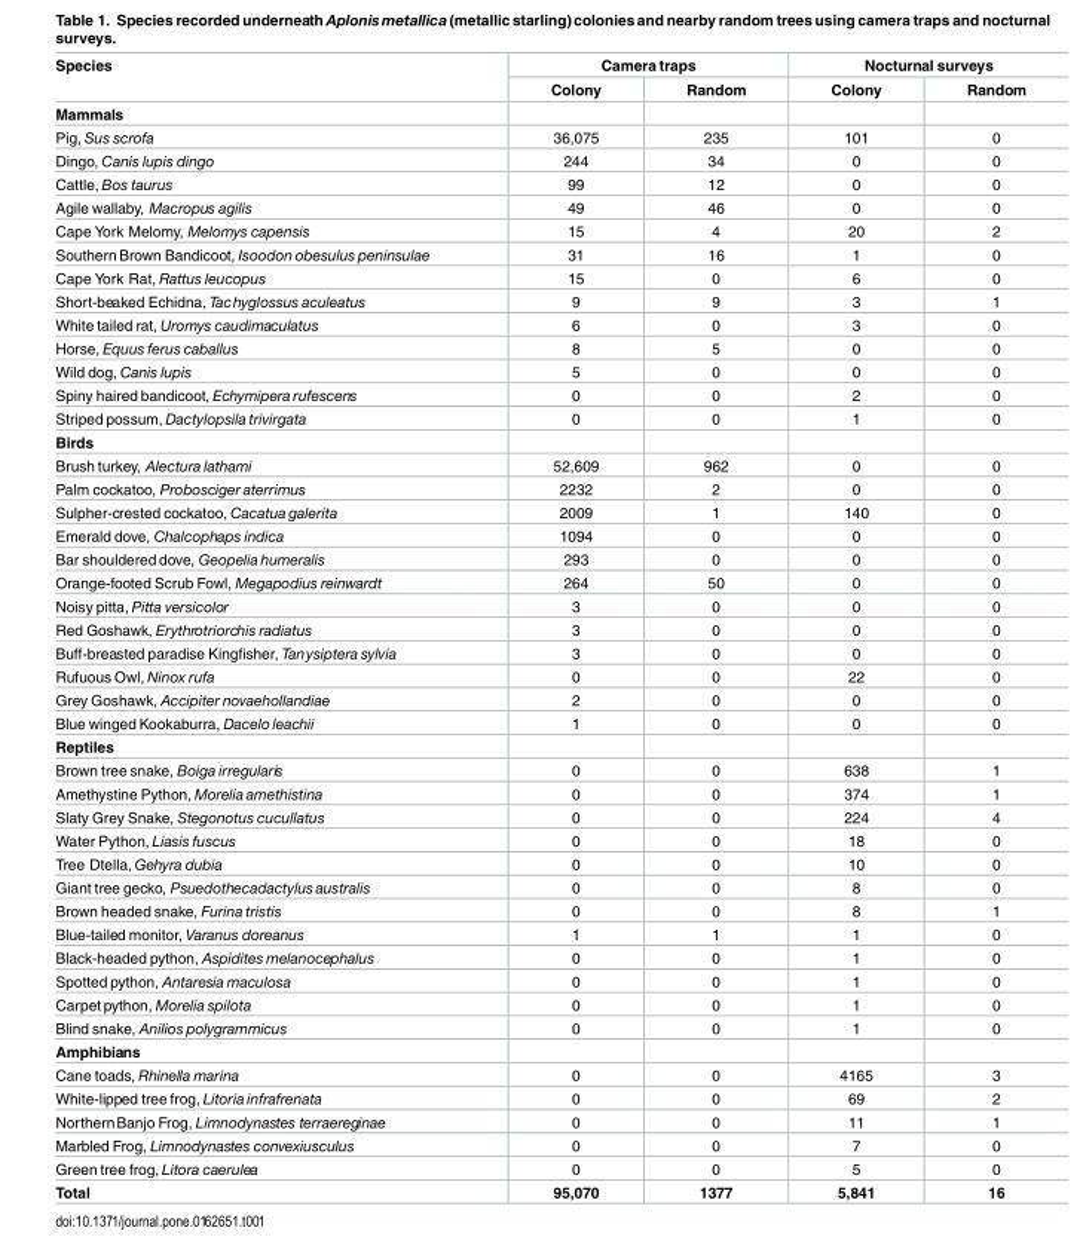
<table><thead><tr><td rowspan="2">Species</td><td colspan="2">Camera traps</td><td colspan="2">Nocturnal surveys</td></tr><tr><td>Colony</td><td>Random</td><td>Colony</td><td>Random</td></tr></thead><tbody><tr><td colspan="5">Mammals</td></tr><tr><td>Pig, Sus scrofa</td><td>36,075</td><td>235</td><td>101</td><td>0</td></tr><tr><td>Dingo, Canis lupis dingo</td><td>244</td><td>34</td><td>0</td><td>0</td></tr><tr><td>Cattle, Bos taurus</td><td>99</td><td>12</td><td>0</td><td>0</td></tr><tr><td>Agile wallaby, Macropus agilis</td><td>49</td><td>46</td><td>0</td><td>0</td></tr><tr><td>Cape York Melomy, Melomys capensis</td><td>15</td><td>4</td><td>20</td><td>2</td></tr><tr><td>Southern Brown Bandicoot, Isoodon obesulus peninsulae</td><td>31</td><td>16</td><td>1</td><td>0</td></tr><tr><td>Cape York Rat, Rattus leucopus</td><td>15</td><td>0</td><td>6</td><td>0</td></tr><tr><td>Short-beaked Echidna, Tachyglossus aculeatus</td><td>9</td><td>9</td><td>3</td><td>1</td></tr><tr><td>White tailed rat, Uromys caudimaculatus</td><td>6</td><td>0</td><td>3</td><td>0</td></tr><tr><td>Horse, Equus ferus caballus</td><td>8</td><td>5</td><td>0</td><td>0</td></tr><tr><td>Wild dog, Canis lupis</td><td>5</td><td>0</td><td>0</td><td>0</td></tr><tr><td>Spiny haired bandicoot, Echymipera rufescens</td><td>0</td><td>0</td><td>2</td><td>0</td></tr><tr><td>Striped possum, Dactylopsila trivirgata</td><td>0</td><td>0</td><td>1</td><td>0</td></tr><tr><td colspan="5">Birds</td></tr><tr><td>Brush turkey, Alectura lathami</td><td>52,609</td><td>962</td><td>0</td><td>0</td></tr><tr><td>Palm cockatoo, Probosciger aterrimus</td><td>2232</td><td>2</td><td>0</td><td>0</td></tr><tr><td>Sulpher-crested cockatoo, Cacatua galerita</td><td>2009</td><td>1</td><td>140</td><td>0</td></tr><tr><td>Emerald dove, Chalcophaps indica</td><td>1094</td><td>0</td><td>0</td><td>0</td></tr><tr><td>Bar shouldered dove, Geopelia humeralis</td><td>293</td><td>0</td><td>0</td><td>0</td></tr><tr><td>Orange-footed Scrub Fowl, Megapodius reinwardt</td><td>264</td><td>50</td><td>0</td><td>0</td></tr><tr><td>Noisy pitta, Pitta versicolor</td><td>3</td><td>0</td><td>0</td><td>0</td></tr><tr><td>Red Goshawk, Erythrotriorchis radiatus</td><td>3</td><td>0</td><td>0</td><td>0</td></tr><tr><td>Buff-breasted paradise Kingfisher, Tanysiptera sylvia</td><td>3</td><td>0</td><td>0</td><td>0</td></tr><tr><td>Rufuous Owl, Ninox rufa</td><td>0</td><td>0</td><td>22</td><td>0</td></tr><tr><td>Grey Goshawk, Accipiter novaehollandiae</td><td>2</td><td>0</td><td>0</td><td>0</td></tr><tr><td>Blue winged Kookaburra, Dacelo leachii</td><td>1</td><td>0</td><td>0</td><td>0</td></tr><tr><td colspan="5">Reptiles</td></tr><tr><td>Brown tree snake, Boiga irregularis</td><td>0</td><td>0</td><td>638</td><td>1</td></tr><tr><td>Amethystine Python, Morelia amethistina</td><td>0</td><td>0</td><td>374</td><td>1</td></tr><tr><td>Slaty Grey Snake, Stegonotus cucullatus</td><td>0</td><td>0</td><td>224</td><td>4</td></tr><tr><td>Water Python, Liasis fuscus</td><td>0</td><td>0</td><td>18</td><td>0</td></tr><tr><td>Tree Dtella, Gehyra dubia</td><td>0</td><td>0</td><td>10</td><td>0</td></tr><tr><td>Giant tree gecko, Psuedothecadactylus australis</td><td>0</td><td>0</td><td>8</td><td>0</td></tr><tr><td>Brown headed snake, Furina tristis</td><td>0</td><td>0</td><td>8</td><td>1</td></tr><tr><td>Blue-tailed monitor, Varanus doreanus</td><td>1</td><td>1</td><td>1</td><td>0</td></tr><tr><td>Black-headed python, Aspidites melanocephalus</td><td>0</td><td>0</td><td>1</td><td>0</td></tr><tr><td>Spotted python, Antaresia maculosa</td><td>0</td><td>0</td><td>1</td><td>0</td></tr><tr><td>Carpet python, Morelia spilota</td><td>0</td><td>0</td><td>1</td><td>0</td></tr><tr><td>Blind snake, Anilios polygrammicus</td><td>0</td><td>0</td><td>1</td><td>0</td></tr><tr><td colspan="5">Amphibians</td></tr><tr><td>Cane toads, Rhinella marina</td><td>0</td><td>0</td><td>4165</td><td>3</td></tr><tr><td>White-lipped tree frog, Litoria infrafrenata</td><td>0</td><td>0</td><td>69</td><td>2</td></tr><tr><td>NorthernBanjo Frog, Limnodynastes terraereginae</td><td>0</td><td>0</td><td>11</td><td>1</td></tr><tr><td>Marbled Frog, Limnodynastes convexiusculus</td><td>0</td><td>0</td><td>7</td><td>0</td></tr><tr><td>Green tree frog, Litora caerulea</td><td>0</td><td>0</td><td>5</td><td>0</td></tr><tr><td>Total</td><td>95,070</td><td>1377</td><td>5,841</td><td>16</td></tr></tbody></table>